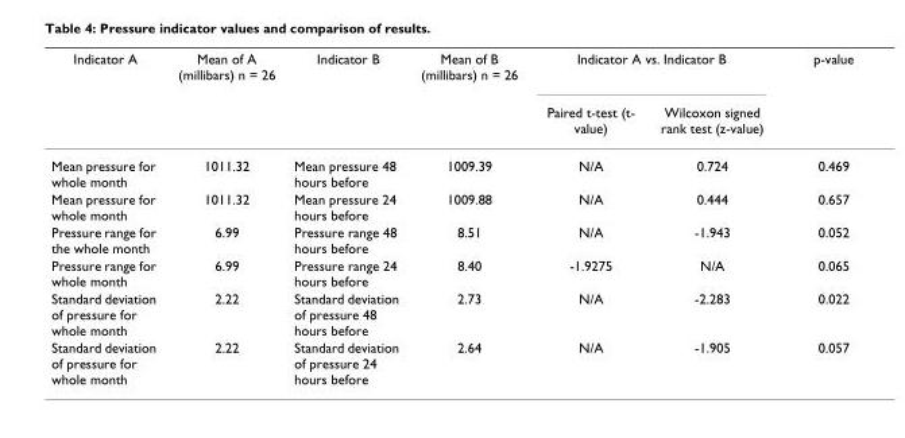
<table><thead><tr><td rowspan="2">Indicator A</td><td rowspan="2">Mean of A (millibars) n = 26</td><td rowspan="2">Indicator B</td><td rowspan="2">Mean of B (millibars) n = 26</td><td colspan="2">Indicator A vs. Indicator B</td><td rowspan="2">p-value</td></tr><tr><td>Paired t-test (t- value)</td><td>Wilcoxon signed rank test (z-value)</td></tr></thead><tbody><tr><td>Mean pressure for whole month</td><td>1011.32</td><td>Mean pressure 48 hours before</td><td>1009.39</td><td>N/A</td><td>0.724</td><td>0.469</td></tr><tr><td>Mean pressure for whole month</td><td>1011.32</td><td>Mean pressure 24 hours before</td><td>1009.88</td><td>N/A</td><td>0.444</td><td>0.657</td></tr><tr><td>Pressure range for the whole month</td><td>6.99</td><td>Pressure range 48 hours before</td><td>8.51</td><td>N/A</td><td>-1.943</td><td>0.052</td></tr><tr><td>Pressure range for whole month</td><td>6.99</td><td>Pressure range 24 hours before</td><td>8.40</td><td>-1.9275</td><td>N/A</td><td>0.065</td></tr><tr><td>Standard deviation of pressure for whole month</td><td>2.22</td><td>Standard deviation of pressure 48 hours before</td><td>2.73</td><td>N/A</td><td>-2.283</td><td>0.022</td></tr><tr><td>Standard deviation of pressure for whole month</td><td>2.22</td><td>Standard deviation of pressure 24 hours before</td><td>2.64</td><td>N/A</td><td>-1.905</td><td>0.057</td></tr></tbody></table>